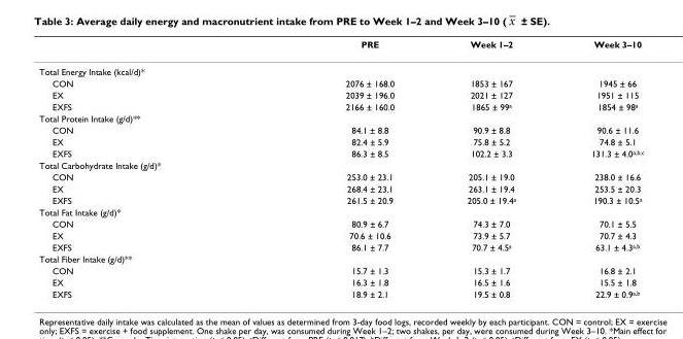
<table><thead><tr><td></td><td>PRE</td><td>Week 1–2</td><td>Week 3–10</td></tr></thead><tbody><tr><td colspan="4">Total Energy Intake (kcal/d)*</td></tr><tr><td>CON</td><td>2076 ± 168.0</td><td>1853 ± 167</td><td>1945 ± 66</td></tr><tr><td>EX</td><td>2039 ± 196.0</td><td>2021 ± 127</td><td>1951 ± 115</td></tr><tr><td>EXFS</td><td>2166 ± 160.0</td><td>1865 ± 99<sup>a</sup></td><td>1854 ± 98<sup>a</sup></td></tr><tr><td colspan="4">Total Protein Intake (g/d)**</td></tr><tr><td>CON</td><td>84.1 ± 8.8</td><td>90.9 ± 8.8</td><td>90.6 ± 11.6</td></tr><tr><td>EX</td><td>82.4 ± 5.9</td><td>75.8 ± 5.2</td><td>74.8 ± 5.1</td></tr><tr><td>EXFS</td><td>86.3 ± 8.5</td><td>102.2 ± 3.3</td><td>131.3 ± 4.0<sup>a,b,c</sup></td></tr><tr><td colspan="4">Total Carbohydrate Intake (g/d)*</td></tr><tr><td>CON</td><td>253.0 ± 23.1</td><td>205.1 ± 19.0</td><td>238.0 ± 16.6</td></tr><tr><td>EX</td><td>268.4 ± 23.1</td><td>263.1 ± 19.4</td><td>253.5 ± 20.3</td></tr><tr><td>EXFS</td><td>261.5 ± 20.9</td><td>205.0 ± 19.4<sup>a</sup></td><td>190.3 ± 10.5<sup>a</sup></td></tr><tr><td colspan="4">Total Fat Intake (g/d)*</td></tr><tr><td>CON</td><td>80.9 ± 6.7</td><td>74.3 ± 7.0</td><td>70.1 ± 5.5</td></tr><tr><td>EX</td><td>70.6 ± 10.6</td><td>73.9 ± 5.7</td><td>70.7 ± 4.3</td></tr><tr><td>EXFS</td><td>86.1 ± 7.7</td><td>70.7 ± 4.5<sup>a</sup></td><td>63.1 ± 4.3<sup>a,b</sup></td></tr><tr><td colspan="4">Total Fiber Intake (g/d)**</td></tr><tr><td>CON</td><td>15.7 ± 1.3</td><td>15.3 ± 1.7</td><td>16.8 ± 2.1</td></tr><tr><td>EX</td><td>16.3 ± 1.8</td><td>16.5 ± 1.6</td><td>15.5 ± 1.8</td></tr><tr><td>EXFS</td><td>18.9 ± 2.1</td><td>19.5 ± 0.8</td><td>22.9 ± 0.9<sup>a,b</sup></td></tr></tbody></table>